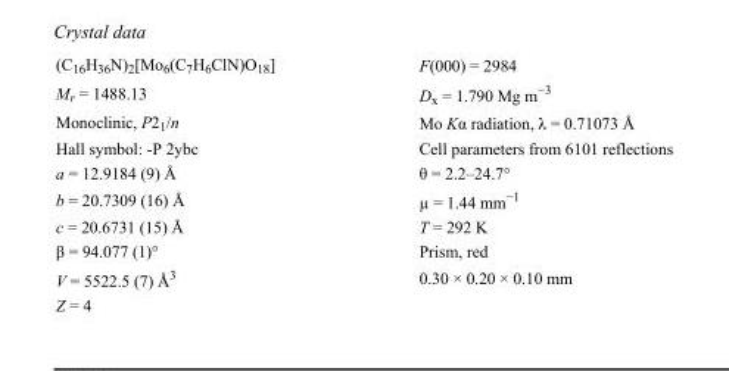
<table><tbody><tr><td>(C<sub>16</sub>H<sub>36</sub>N)<sub>2</sub>[Mo<sub>6</sub>(C<sub>7</sub>H<sub>6</sub>ClN)O<sub>18</sub>]</td><td>F(000) = 2984</td></tr><tr><td>M<sub>r</sub> = 1488.13</td><td>D<sub>x</sub> = 1.790 Mg m<sup>−3</sup></td></tr><tr><td>Monoclinic, P2<sub>1</sub>/n</td><td>Mo Kα radiation, λ = 0.71073 Å</td></tr><tr><td>Hall symbol: -P 2ybc</td><td>Cell parameters from 6101 reflections</td></tr><tr><td>a = 12.9184 (9) Å</td><td>θ = 2.2–24.7°</td></tr><tr><td>b = 20.7309 (16) Å</td><td>µ = 1.44 mm<sup>−1</sup></td></tr><tr><td>c = 20.6731 (15) Å</td><td>T = 292 K</td></tr><tr><td>β = 94.077 (1)°</td><td>Prism, red</td></tr><tr><td>V = 5522.5 (7) Å<sup>3</sup></td><td>0.30 × 0.20 × 0.10 mm</td></tr><tr><td>Z = 4</td><td></td></tr></tbody></table>